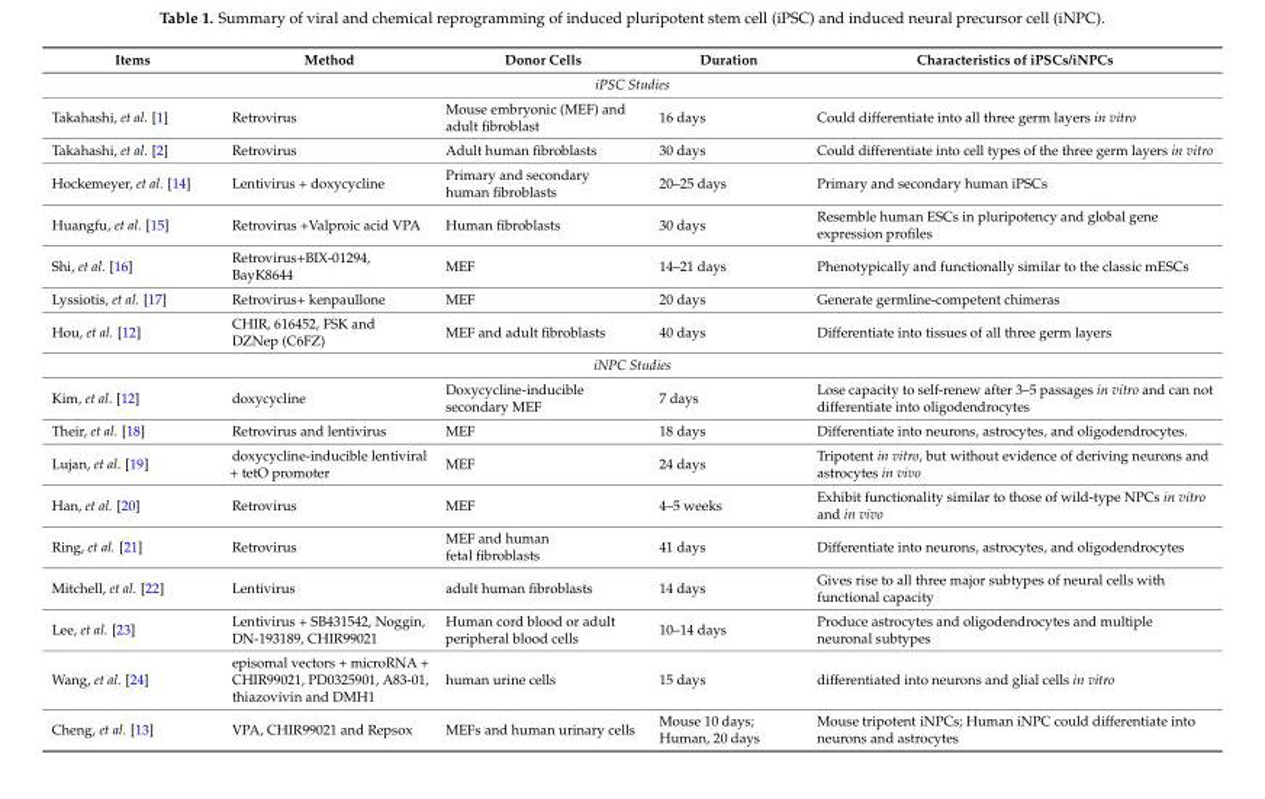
<table><thead><tr><td>Items</td><td>Method</td><td>Donor Cells</td><td>Duration</td><td>Characteristics of iPSCs/iNPCs</td></tr></thead><tbody><tr><td colspan="5">iPSC Studies</td></tr><tr><td>Takahashi, et al. [1]</td><td>Retrovirus</td><td>Mouse embryonic (MEF) and adult fibroblast</td><td>16 days</td><td>Could differentiate into all three germ layers in vitro</td></tr><tr><td>Takahashi, et al. [2]</td><td>Retrovirus</td><td>Adult human fibroblasts</td><td>30 days</td><td>Could differentiate into cell types of the three germ layers in vitro</td></tr><tr><td>Hockemeyer, et al. [14]</td><td>Lentivirus + doxycycline</td><td>Primary and secondary human fibroblasts</td><td>20–25 days</td><td>Primary and secondary human iPSCs</td></tr><tr><td>Huangfu, et al. [15]</td><td>Retrovirus +Valproic acid VPA</td><td>Human fibroblasts</td><td>30 days</td><td>Resemble human ESCs in pluripotency and global gene expression profiles</td></tr><tr><td>Shi, et al. [16]</td><td>Retrovirus+BIX-01294, BayK8644</td><td>MEF</td><td>14–21 days</td><td>Phenotypically and functionally similar to the classic mESCs</td></tr><tr><td>Lyssiotis, et al. [17]</td><td>Retrovirus+ kenpaullone</td><td>MEF</td><td>20 days</td><td>Generate germline-competent chimeras</td></tr><tr><td>Hou, et al. [12]</td><td>CHIR, 616452, FSK and DZNep (C6FZ)</td><td>MEF and adult fibroblasts</td><td>40 days</td><td>Differentiate into tissues of all three germ layers</td></tr><tr><td colspan="5">iNPC Studies</td></tr><tr><td>Kim, et al. [12]</td><td>doxycycline</td><td>Doxycycline-inducible secondary MEF</td><td>7 days</td><td>Lose capacity to self-renew after 3–5 passages in vitro and can not differentiate into oligodendrocytes</td></tr><tr><td>Their, et al. [18]</td><td>Retrovirus and lentivirus</td><td>MEF</td><td>18 days</td><td>Differentiate into neurons, astrocytes, and oligodendrocytes.</td></tr><tr><td>Lujan, et al. [19]</td><td>doxycycline-inducible lentiviral + tetO promoter</td><td>MEF</td><td>24 days</td><td>Tripotent in vitro, but without evidence of deriving neurons and astrocytes in vivo</td></tr><tr><td>Han, et al. [20]</td><td>Retrovirus</td><td>MEF</td><td>4–5 weeks</td><td>Exhibit functionality similar to those of wild-type NPCs in vitro and in vivo</td></tr><tr><td>Ring, et al. [21]</td><td>Retrovirus</td><td>MEF and human fetal fibroblasts</td><td>41 days</td><td>Differentiate into neurons, astrocytes, and oligodendrocytes</td></tr><tr><td>Mitchell, et al. [22]</td><td>Lentivirus</td><td>adult human fibroblasts</td><td>14 days</td><td>Gives rise to all three major subtypes of neural cells with functional capacity</td></tr><tr><td>Lee, et al. [23]</td><td>Lentivirus + SB431542, Noggin, DN-193189, CHIR99021</td><td>Human cord blood or adult peripheral blood cells</td><td>10–14 days</td><td>Produce astrocytes and oligodendrocytes and multiple neuronal subtypes</td></tr><tr><td>Wang, et al. [24]</td><td>episomal vectors + microRNA + CHIR99021, PD0325901, A83-01, thiazovivin and DMH1</td><td>human urine cells</td><td>15 days</td><td>differentiated into neurons and glial cells in vitro</td></tr><tr><td>Cheng, et al. [13]</td><td>VPA, CHIR99021 and Repsox</td><td>MEFs and human urinary cells</td><td>Mouse 10 days; Human, 20 days</td><td>Mouse tripotent iNPCs; Human iNPC could differentiate into neurons and astrocytes</td></tr></tbody></table>